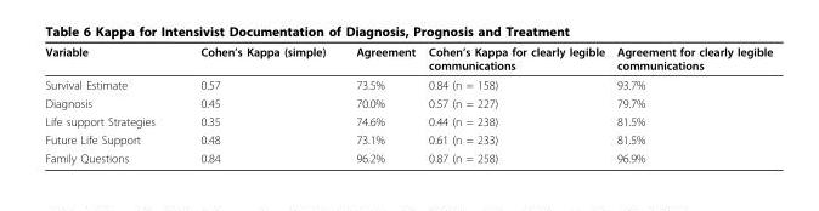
<table><thead><tr><td>Variable</td><td>Cohen’s Kappa (simple)</td><td>Agreement</td><td>Cohen’s Kappa for clearly legible communications</td><td>Agreement for clearly legible communications</td></tr></thead><tbody><tr><td>Survival Estimate</td><td>0.57</td><td>73.5%</td><td>0.84 (n = 158)</td><td>93.7%</td></tr><tr><td>Diagnosis</td><td>0.45</td><td>70.0%</td><td>0.57 (n = 227)</td><td>79.7%</td></tr><tr><td>Life support Strategies</td><td>0.35</td><td>74.6%</td><td>0.44 (n = 238)</td><td>81.5%</td></tr><tr><td>Future Life Support</td><td>0.48</td><td>73.1%</td><td>0.61 (n = 233)</td><td>81.5%</td></tr><tr><td>Family Questions</td><td>0.84</td><td>96.2%</td><td>0.87 (n = 258)</td><td>96.9%</td></tr></tbody></table>